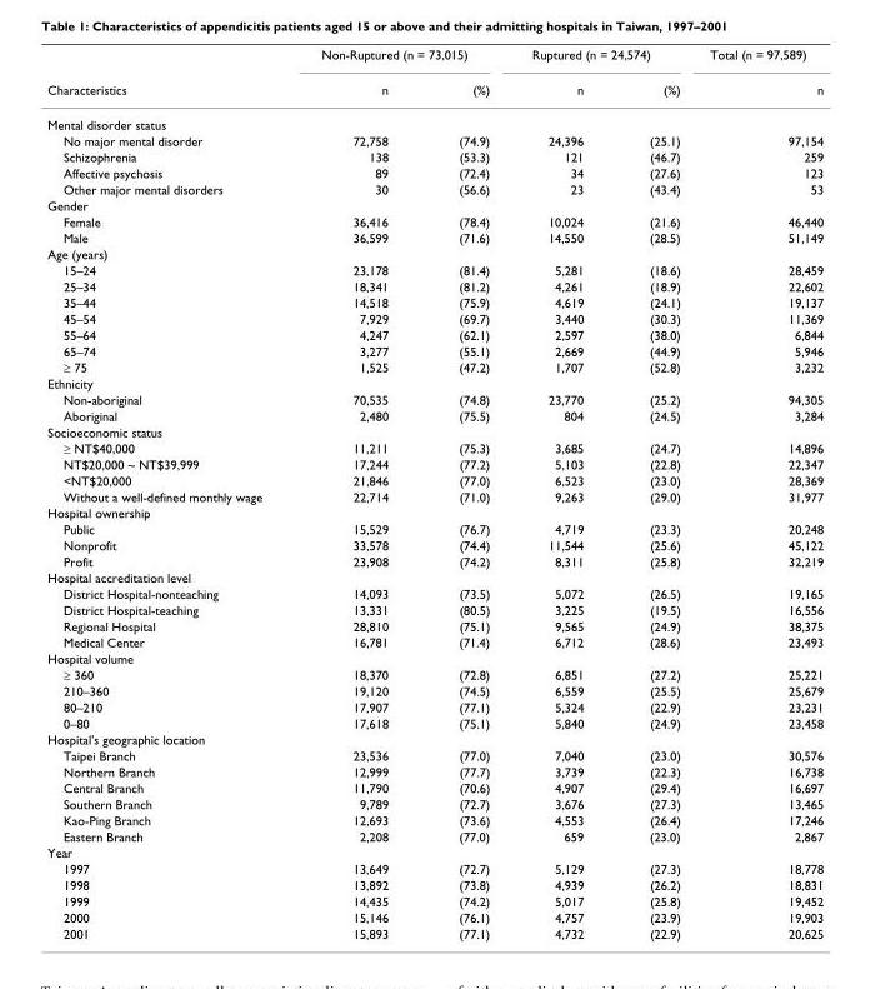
<table><thead><tr><td rowspan="2">Characteristics</td><td colspan="2">Non-Ruptured (n = 73,015)</td><td colspan="2">Ruptured (n = 24,574)</td><td rowspan="2">Total (n = 97,589) n</td></tr><tr><td>n</td><td>(%)</td><td>n</td><td>(%)</td></tr></thead><tbody><tr><td colspan="6">Mental disorder status</td></tr><tr><td>No major mental disorder</td><td>72,758</td><td>(74.9)</td><td>24,396</td><td>(25.1)</td><td>97,154</td></tr><tr><td>Schizophrenia</td><td>138</td><td>(53.3)</td><td>121</td><td>(46.7)</td><td>259</td></tr><tr><td>Affective psychosis</td><td>89</td><td>(72.4)</td><td>34</td><td>(27.6)</td><td>123</td></tr><tr><td>Other major mental disorders</td><td>30</td><td>(56.6)</td><td>23</td><td>(43.4)</td><td>53</td></tr><tr><td colspan="6">Gender</td></tr><tr><td>Female</td><td>36,416</td><td>(78.4)</td><td>10,024</td><td>(21.6)</td><td>46,440</td></tr><tr><td>Male</td><td>36,599</td><td>(71.6)</td><td>14,550</td><td>(28.5)</td><td>51,149</td></tr><tr><td colspan="6">Age (years)</td></tr><tr><td>15–24</td><td>23,178</td><td>(81.4)</td><td>5,281</td><td>(18.6)</td><td>28,459</td></tr><tr><td>25–34</td><td>18,341</td><td>(81.2)</td><td>4,261</td><td>(18.9)</td><td>22,602</td></tr><tr><td>35–44</td><td>14,518</td><td>(75.9)</td><td>4,619</td><td>(24.1)</td><td>19,137</td></tr><tr><td>45–54</td><td>7,929</td><td>(69.7)</td><td>3,440</td><td>(30.3)</td><td>11,369</td></tr><tr><td>55–64</td><td>4,247</td><td>(62.1)</td><td>2,597</td><td>(38.0)</td><td>6,844</td></tr><tr><td>65–74</td><td>3,277</td><td>(55.1)</td><td>2,669</td><td>(44.9)</td><td>5,946</td></tr><tr><td>≥ 75</td><td>1,525</td><td>(47.2)</td><td>1,707</td><td>(52.8)</td><td>3,232</td></tr><tr><td colspan="6">Ethnicity</td></tr><tr><td>Non-aboriginal</td><td>70,535</td><td>(74.8)</td><td>23,770</td><td>(25.2)</td><td>94,305</td></tr><tr><td>Aboriginal</td><td>2,480</td><td>(75.5)</td><td>804</td><td>(24.5)</td><td>3,284</td></tr><tr><td colspan="6">Socioeconomic status</td></tr><tr><td>≥ NT$40,000</td><td>11,211</td><td>(75.3)</td><td>3,685</td><td>(24.7)</td><td>14,896</td></tr><tr><td>NT$20,000 ~ NT$39,999</td><td>17,244</td><td>(77.2)</td><td>5,103</td><td>(22.8)</td><td>22,347</td></tr><tr><td>&lt;NT$20,000</td><td>21,846</td><td>(77.0)</td><td>6,523</td><td>(23.0)</td><td>28,369</td></tr><tr><td>Without a well-defined monthly wage</td><td>22,714</td><td>(71.0)</td><td>9,263</td><td>(29.0)</td><td>31,977</td></tr><tr><td colspan="6">Hospital ownership</td></tr><tr><td>Public</td><td>15,529</td><td>(76.7)</td><td>4,719</td><td>(23.3)</td><td>20,248</td></tr><tr><td>Nonprofit</td><td>33,578</td><td>(74.4)</td><td>11,544</td><td>(25.6)</td><td>45,122</td></tr><tr><td>Profit</td><td>23,908</td><td>(74.2)</td><td>8,311</td><td>(25.8)</td><td>32,219</td></tr><tr><td colspan="6">Hospital accreditation level</td></tr><tr><td>District Hospital-nonteaching</td><td>14,093</td><td>(73.5)</td><td>5,072</td><td>(26.5)</td><td>19,165</td></tr><tr><td>District Hospital-teaching</td><td>13,331</td><td>(80.5)</td><td>3,225</td><td>(19.5)</td><td>16,556</td></tr><tr><td>Regional Hospital</td><td>28,810</td><td>(75.1)</td><td>9,565</td><td>(24.9)</td><td>38,375</td></tr><tr><td>Medical Center</td><td>16,781</td><td>(71.4)</td><td>6,712</td><td>(28.6)</td><td>23,493</td></tr><tr><td colspan="6">Hospital volume</td></tr><tr><td>≥ 360</td><td>18,370</td><td>(72.8)</td><td>6,851</td><td>(27.2)</td><td>25,221</td></tr><tr><td>210–360</td><td>19,120</td><td>(74.5)</td><td>6,559</td><td>(25.5)</td><td>25,679</td></tr><tr><td>80–210</td><td>17,907</td><td>(77.1)</td><td>5,324</td><td>(22.9)</td><td>23,231</td></tr><tr><td>0–80</td><td>17,618</td><td>(75.1)</td><td>5,840</td><td>(24.9)</td><td>23,458</td></tr><tr><td colspan="6">Hospital&#x27;s geographic location</td></tr><tr><td>Taipei Branch</td><td>23,536</td><td>(77.0)</td><td>7,040</td><td>(23.0)</td><td>30,576</td></tr><tr><td>Northern Branch</td><td>12,999</td><td>(77.7)</td><td>3,739</td><td>(22.3)</td><td>16,738</td></tr><tr><td>Central Branch</td><td>11,790</td><td>(70.6)</td><td>4,907</td><td>(29.4)</td><td>16,697</td></tr><tr><td>Southern Branch</td><td>9,789</td><td>(72.7)</td><td>3,676</td><td>(27.3)</td><td>13,465</td></tr><tr><td>Kao-Ping Branch</td><td>12,693</td><td>(73.6)</td><td>4,553</td><td>(26.4)</td><td>17,246</td></tr><tr><td>Eastern Branch</td><td>2,208</td><td>(77.0)</td><td>659</td><td>(23.0)</td><td>2,867</td></tr><tr><td colspan="6">Year</td></tr><tr><td>1997</td><td>13,649</td><td>(72.7)</td><td>5,129</td><td>(27.3)</td><td>18,778</td></tr><tr><td>1998</td><td>13,892</td><td>(73.8)</td><td>4,939</td><td>(26.2)</td><td>18,831</td></tr><tr><td>1999</td><td>14,435</td><td>(74.2)</td><td>5,017</td><td>(25.8)</td><td>19,452</td></tr><tr><td>2000</td><td>15,146</td><td>(76.1)</td><td>4,757</td><td>(23.9)</td><td>19,903</td></tr><tr><td>2001</td><td>15,893</td><td>(77.1)</td><td>4,732</td><td>(22.9)</td><td>20,625</td></tr></tbody></table>